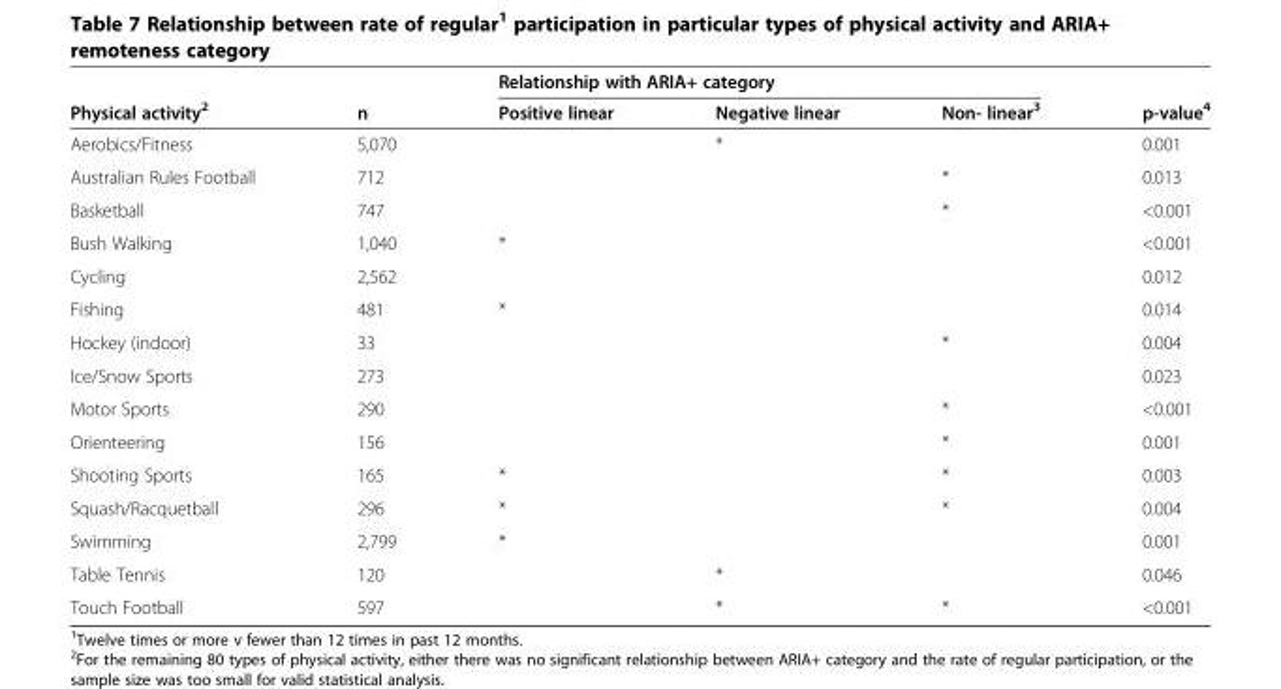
<table><thead><tr><td rowspan="2">Physical activity<sup>2</sup></td><td rowspan="2">n</td><td colspan="3">Relationship with ARIA+ category</td><td rowspan="2">p-value<sup>4</sup></td></tr><tr><td>Positive linear</td><td>Negative linear</td><td>Non- linear<sup>3</sup></td></tr></thead><tbody><tr><td>Aerobics/Fitness</td><td>5,070</td><td></td><td>*</td><td></td><td>0.001</td></tr><tr><td>Australian Rules Football</td><td>712</td><td></td><td></td><td>*</td><td>0.013</td></tr><tr><td>Basketball</td><td>747</td><td></td><td></td><td>*</td><td>&lt;0.001</td></tr><tr><td>Bush Walking</td><td>1,040</td><td>*</td><td></td><td></td><td>&lt;0.001</td></tr><tr><td>Cycling</td><td>2,562</td><td></td><td></td><td></td><td>0.012</td></tr><tr><td>Fishing</td><td>481</td><td>*</td><td></td><td></td><td>0.014</td></tr><tr><td>Hockey (indoor)</td><td>33</td><td></td><td></td><td>*</td><td>0.004</td></tr><tr><td>Ice/Snow Sports</td><td>273</td><td></td><td></td><td></td><td>0.023</td></tr><tr><td>Motor Sports</td><td>290</td><td></td><td></td><td>*</td><td>&lt;0.001</td></tr><tr><td>Orienteering</td><td>156</td><td></td><td></td><td>*</td><td>0.001</td></tr><tr><td>Shooting Sports</td><td>165</td><td>*</td><td></td><td>*</td><td>0.003</td></tr><tr><td>Squash/Racquetball</td><td>296</td><td>*</td><td></td><td>*</td><td>0.004</td></tr><tr><td>Swimming</td><td>2,799</td><td>*</td><td></td><td></td><td>0.001</td></tr><tr><td>Table Tennis</td><td>120</td><td></td><td>*</td><td></td><td>0.046</td></tr><tr><td>Touch Football</td><td>597</td><td></td><td>*</td><td>*</td><td>&lt;0.001</td></tr></tbody></table>